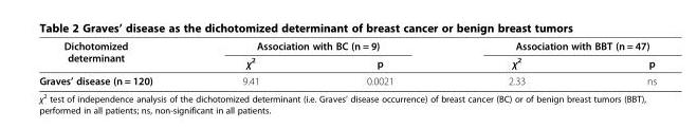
<table><thead><tr><td rowspan="2">Dichotomized determinant</td><td colspan="2">Association with BC (n = 9)</td><td colspan="2">Association with BBT (n = 47)</td></tr><tr><td>χ<sup>2</sup></td><td>p</td><td>χ<sup>2</sup></td><td>p</td></tr></thead><tbody><tr><td>Graves’ disease (n = 120)</td><td>9.41</td><td>0.0021</td><td>2.33</td><td>ns</td></tr></tbody></table>